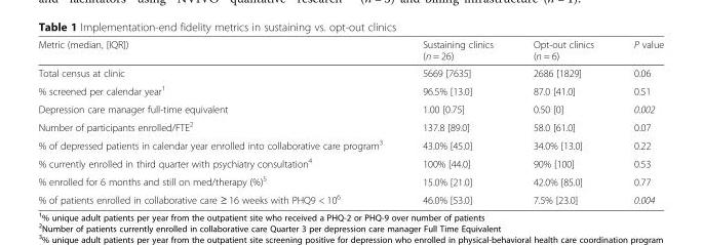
<table><thead><tr><td>Metric (median, [IQR])</td><td>Sustaining clinics (n = 26)</td><td>Opt-out clinics (n = 6)</td><td>P value</td></tr></thead><tbody><tr><td>Total census at clinic</td><td>5669 [7635]</td><td>2686 [1829]</td><td>0.06</td></tr><tr><td>% screened per calendar year<sup>1</sup></td><td>96.5% [13.0]</td><td>87.0 [41.0]</td><td>0.51</td></tr><tr><td>Depression care manager full-time equivalent</td><td>1.00 [0.75]</td><td>0.50 [0]</td><td>0.002</td></tr><tr><td>Number of participants enrolled/FTE<sup>2</sup></td><td>137.8 [89.0]</td><td>58.0 [61.0]</td><td>0.07</td></tr><tr><td>% of depressed patients in calendar year enrolled into collaborative care program<sup>3</sup></td><td>43.0% [45.0]</td><td>34.0% [13.0]</td><td>0.22</td></tr><tr><td>% currently enrolled in third quarter with psychiatry consultation<sup>4</sup></td><td>100% [44.0]</td><td>90% [100]</td><td>0.53</td></tr><tr><td>% enrolled for 6 months and still on med/therapy (%)<sup>5</sup></td><td>15.0% [21.0]</td><td>42.0% [85.0]</td><td>0.77</td></tr><tr><td>% of patients enrolled in collaborative care ≥ 16 weeks with PHQ9 &lt; 10<sup>6</sup></td><td>46.0% [53.0]</td><td>7.5% [23.0]</td><td>0.004</td></tr></tbody></table>